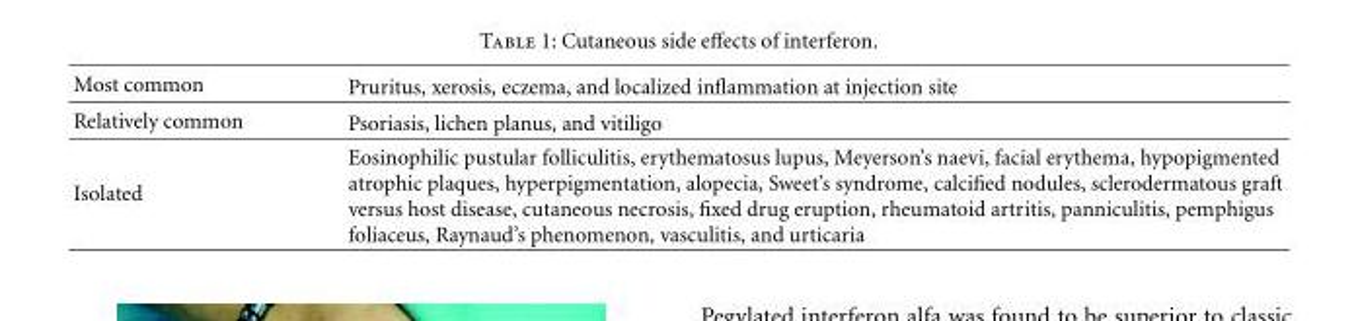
<table><thead><tr><td>Most common</td><td>Pruritus, xerosis, eczema, and localized inflammation at injection site</td></tr></thead><tbody><tr><td>Relatively common</td><td>Psoriasis, lichen planus, and vitiligo</td></tr><tr><td>Isolated</td><td>Eosinophilic pustular folliculitis, erythematosus lupus, Meyerson’s naevi, facial erythema, hypopigmented atrophic plaques, hyperpigmentation, alopecia, Sweet’s syndrome, calcified nodules, sclerodermatous graft versus host disease, cutaneous necrosis, fixed drug eruption, rheumatoid artritis, panniculitis, pemphigus foliaceus, Raynaud’s phenomenon, vasculitis, and urticaria</td></tr></tbody></table>